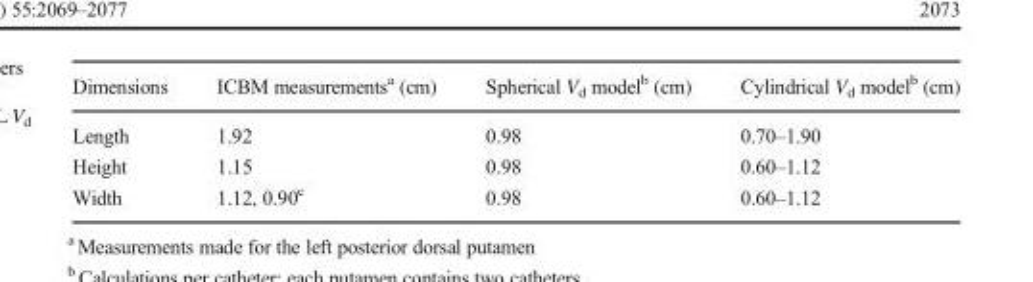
<table><thead><tr><td>Dimensions</td><td>ICBM measurements<sup>a</sup> (cm)</td><td>Spherical V<sub>d</sub> model<sup>b</sup> (cm)</td><td>Cylindrical V<sub>d</sub> model<sup>b</sup> (cm)</td></tr></thead><tbody><tr><td>Length</td><td>1.92</td><td>0.98</td><td>0.70–1.90</td></tr><tr><td>Height</td><td>1.15</td><td>0.98</td><td>0.60–1.12</td></tr><tr><td>Width</td><td>1.12, 0.90<sup>c</sup></td><td>0.98</td><td>0.60–1.12</td></tr></tbody></table>